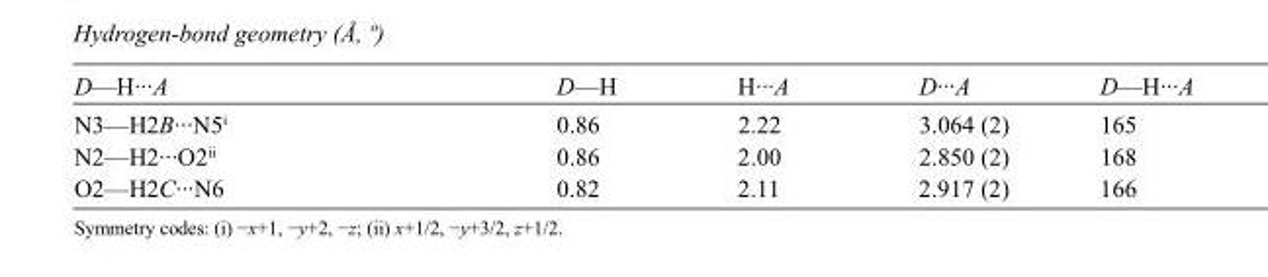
<table><tbody><tr><td>D—H···A</td><td>D—H</td><td>H···A</td><td>D···A</td><td>D—H···A</td></tr><tr><td>N3—H2B···N5<sup>i</sup></td><td>0.86</td><td>2.22</td><td>3.064 (2)</td><td>165</td></tr><tr><td>N2—H2···O2<sup>ii</sup></td><td>0.86</td><td>2.00</td><td>2.850 (2)</td><td>168</td></tr><tr><td>O2—H2C···N6</td><td>0.82</td><td>2.11</td><td>2.917 (2)</td><td>166</td></tr></tbody></table>